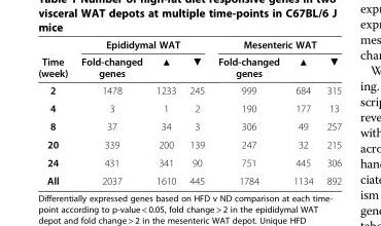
<table><thead><tr><td rowspan="2">Time (week)</td><td colspan="3">Epididymal WAT</td><td colspan="3">Mesenteric WAT</td></tr><tr><td>Fold-changed genes</td><td>▲</td><td>▼</td><td>Fold-changed genes</td><td>▲</td><td>▼</td></tr></thead><tbody><tr><td>2</td><td>1478</td><td>1233</td><td>245</td><td>999</td><td>684</td><td>315</td></tr><tr><td>4</td><td>3</td><td>1</td><td>2</td><td>190</td><td>177</td><td>13</td></tr><tr><td>8</td><td>37</td><td>34</td><td>3</td><td>306</td><td>49</td><td>257</td></tr><tr><td>20</td><td>339</td><td>200</td><td>139</td><td>247</td><td>32</td><td>215</td></tr><tr><td>24</td><td>431</td><td>341</td><td>90</td><td>751</td><td>445</td><td>306</td></tr><tr><td>All</td><td>2037</td><td>1610</td><td>445</td><td>1784</td><td>1134</td><td>892</td></tr></tbody></table>